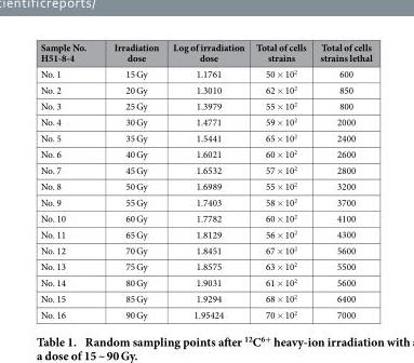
<table><thead><tr><td>Sample No. H51-8-4</td><td>Irradiation dose</td><td>Log of irradiation dose</td><td>Total of cells strains</td><td>Total of cells strains lethal</td></tr></thead><tbody><tr><td>No. 1</td><td>15 Gy</td><td>1.1761</td><td>50 × 10<sup>2</sup></td><td>600</td></tr><tr><td>No. 2</td><td>20 Gy</td><td>1.3010</td><td>62 × 10<sup>2</sup></td><td>850</td></tr><tr><td>No. 3</td><td>25 Gy</td><td>1.3979</td><td>55 × 10<sup>2</sup></td><td>800</td></tr><tr><td>No. 4</td><td>30 Gy</td><td>1.4771</td><td>59 × 10<sup>2</sup></td><td>2000</td></tr><tr><td>No. 5</td><td>35 Gy</td><td>1.5441</td><td>65 × 10<sup>2</sup></td><td>2400</td></tr><tr><td>No. 6</td><td>40 Gy</td><td>1.6021</td><td>60 × 10<sup>2</sup></td><td>2600</td></tr><tr><td>No. 7</td><td>45 Gy</td><td>1.6532</td><td>57 × 10<sup>2</sup></td><td>2800</td></tr><tr><td>No. 8</td><td>50 Gy</td><td>1.6989</td><td>55 × 10<sup>2</sup></td><td>3200</td></tr><tr><td>No. 9</td><td>55 Gy</td><td>1.7403</td><td>58 × 10<sup>2</sup></td><td>3700</td></tr><tr><td>No. 10</td><td>60 Gy</td><td>1.7782</td><td>60 × 10<sup>2</sup></td><td>4100</td></tr><tr><td>No. 11</td><td>65 Gy</td><td>1.8129</td><td>56 × 10<sup>2</sup></td><td>4300</td></tr><tr><td>No. 12</td><td>70 Gy</td><td>1.8451</td><td>67 × 10<sup>2</sup></td><td>5600</td></tr><tr><td>No. 13</td><td>75 Gy</td><td>1.8575</td><td>63 × 10<sup>2</sup></td><td>5500</td></tr><tr><td>No. 14</td><td>80 Gy</td><td>1.9031</td><td>61 × 10<sup>2</sup></td><td>5600</td></tr><tr><td>No. 15</td><td>85 Gy</td><td>1.9294</td><td>68 × 10<sup>2</sup></td><td>6400</td></tr><tr><td>No. 16</td><td>90 Gy</td><td>1.95424</td><td>70 × 10<sup>2</sup></td><td>7000</td></tr></tbody></table>